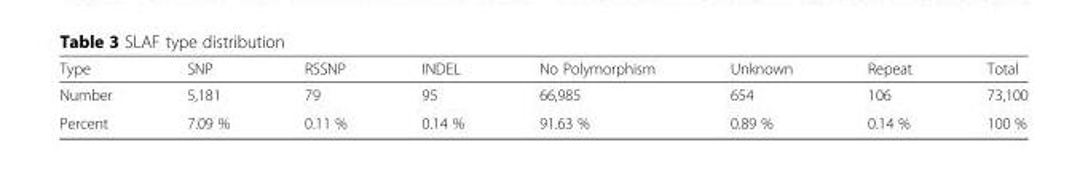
<table><thead><tr><td>Type</td><td>SNP</td><td>RSSNP</td><td>INDEL</td><td>No Polymorphism</td><td>Unknown</td><td>Repeat</td><td>Total</td></tr></thead><tbody><tr><td>Number</td><td>5,181</td><td>79</td><td>95</td><td>66,985</td><td>654</td><td>106</td><td>73,100</td></tr><tr><td>Percent</td><td>7.09 %</td><td>0.11 %</td><td>0.14 %</td><td>91.63 %</td><td>0.89 %</td><td>0.14 %</td><td>100 %</td></tr></tbody></table>